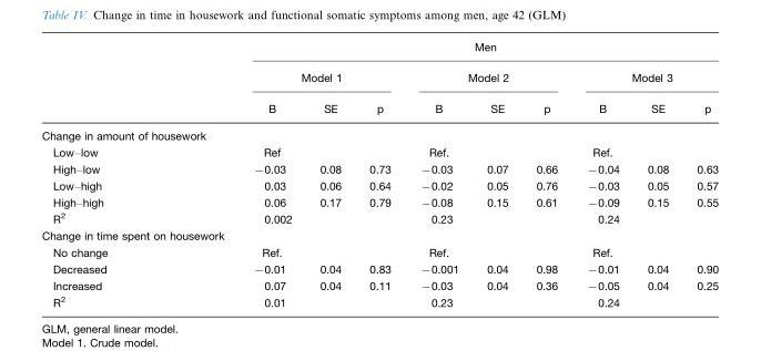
<table><thead><tr><td rowspan="3"></td><td colspan="9">Men</td></tr><tr><td colspan="3">Model 1</td><td colspan="3">Model 2</td><td colspan="3">Model 3</td></tr><tr><td>B</td><td>SE</td><td>p</td><td>B</td><td>SE</td><td>p</td><td>B</td><td>SE</td><td>p</td></tr></thead><tbody><tr><td colspan="10">Change in amount of housework</td></tr><tr><td>Low–low</td><td>Ref</td><td></td><td></td><td>Ref.</td><td></td><td></td><td>Ref.</td><td></td><td></td></tr><tr><td>High–low</td><td>−0.03</td><td>0.08</td><td>0.73</td><td>−0.03</td><td>0.07</td><td>0.66</td><td>−0.04</td><td>0.08</td><td>0.63</td></tr><tr><td>Low–high</td><td>0.03</td><td>0.06</td><td>0.64</td><td>−0.02</td><td>0.05</td><td>0.76</td><td>−0.03</td><td>0.05</td><td>0.57</td></tr><tr><td>High–high</td><td>0.06</td><td>0.17</td><td>0.79</td><td>−0.08</td><td>0.15</td><td>0.61</td><td>−0.09</td><td>0.15</td><td>0.55</td></tr><tr><td>R<sup>2</sup></td><td>0.002</td><td></td><td></td><td>0.23</td><td></td><td></td><td>0.24</td><td></td><td></td></tr><tr><td colspan="10">Change in time spent on housework</td></tr><tr><td>No change</td><td>Ref.</td><td></td><td></td><td>Ref.</td><td></td><td></td><td>Ref.</td><td></td><td></td></tr><tr><td>Decreased</td><td>−0.01</td><td>0.04</td><td>0.83</td><td>−0.001</td><td>0.04</td><td>0.98</td><td>−0.01</td><td>0.04</td><td>0.90</td></tr><tr><td>Increased</td><td>0.07</td><td>0.04</td><td>0.11</td><td>−0.03</td><td>0.04</td><td>0.36</td><td>−0.05</td><td>0.04</td><td>0.25</td></tr><tr><td>R<sup>2</sup></td><td>0.01</td><td></td><td></td><td>0.23</td><td></td><td></td><td>0.24</td><td></td><td></td></tr></tbody></table>